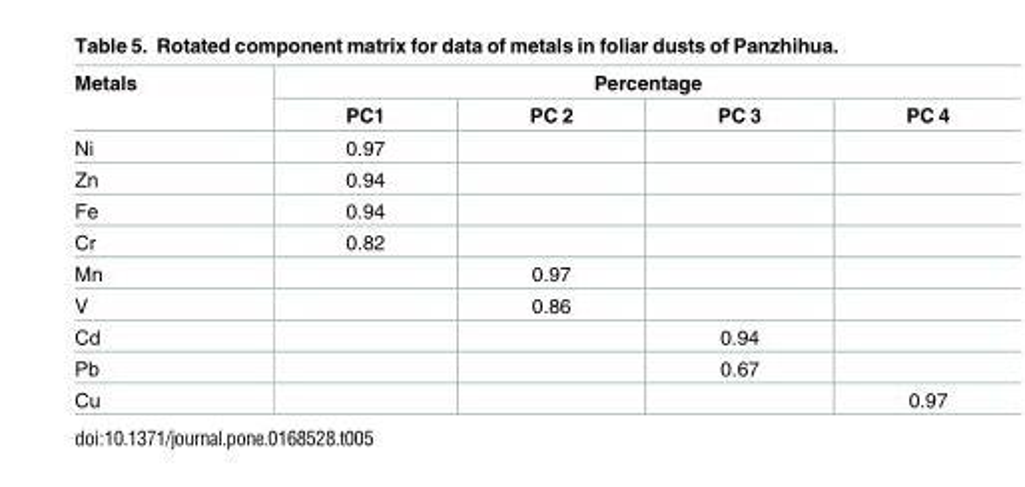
<table><thead><tr><td rowspan="2">Metals</td><td colspan="4">Percentage</td></tr><tr><td>PC1</td><td>PC 2</td><td>PC 3</td><td>PC 4</td></tr></thead><tbody><tr><td>Ni</td><td>0.97</td><td></td><td></td><td></td></tr><tr><td>Zn</td><td>0.94</td><td></td><td></td><td></td></tr><tr><td>Fe</td><td>0.94</td><td></td><td></td><td></td></tr><tr><td>Cr</td><td>0.82</td><td></td><td></td><td></td></tr><tr><td>Mn</td><td></td><td>0.97</td><td></td><td></td></tr><tr><td>V</td><td></td><td>0.86</td><td></td><td></td></tr><tr><td>Cd</td><td></td><td></td><td>0.94</td><td></td></tr><tr><td>Pb</td><td></td><td></td><td>0.67</td><td></td></tr><tr><td>Cu</td><td></td><td></td><td></td><td>0.97</td></tr></tbody></table>